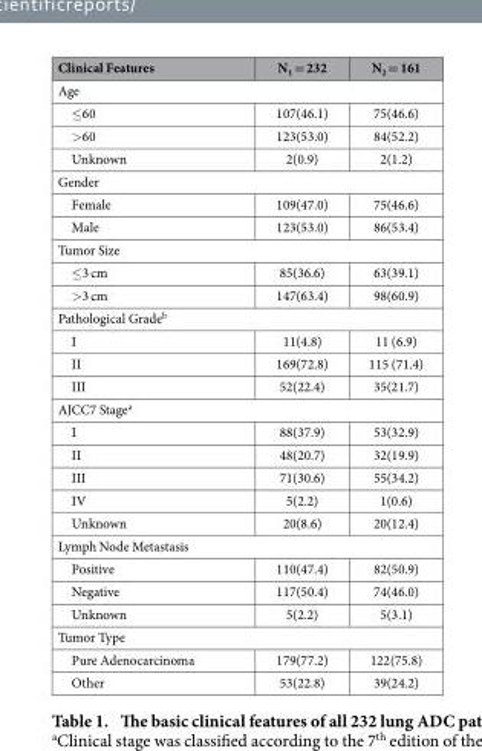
<table><thead><tr><td>Clinical Features</td><td>N<sub>1</sub> = 232</td><td>N<sub>2</sub> = 161</td></tr></thead><tbody><tr><td colspan="3">Age</td></tr><tr><td>≤ 60</td><td>107(46.1)</td><td>75(46.6)</td></tr><tr><td>&gt; 60</td><td>123(53.0)</td><td>84(52.2)</td></tr><tr><td>Unknown</td><td>2(0.9)</td><td>2(1.2)</td></tr><tr><td colspan="3">Gender</td></tr><tr><td>Female</td><td>109(47.0)</td><td>75(46.6)</td></tr><tr><td>Male</td><td>123(53.0)</td><td>86(53.4)</td></tr><tr><td colspan="3">Tumor Size</td></tr><tr><td>≤ 3 cm</td><td>85(36.6)</td><td>63(39.1)</td></tr><tr><td>&gt; 3 cm</td><td>147(63.4)</td><td>98(60.9)</td></tr><tr><td colspan="3">Pathological Grade<sup>b</sup></td></tr><tr><td>I</td><td>11(4.8)</td><td>11 (6.9)</td></tr><tr><td>II</td><td>169(72.8)</td><td>115 (71.4)</td></tr><tr><td>III</td><td>52(22.4)</td><td>35(21.7)</td></tr><tr><td colspan="3">AJCC7 Stage<sup>a</sup></td></tr><tr><td>I</td><td>88(37.9)</td><td>53(32.9)</td></tr><tr><td>II</td><td>48(20.7)</td><td>32(19.9)</td></tr><tr><td>III</td><td>71(30.6)</td><td>55(34.2)</td></tr><tr><td>IV</td><td>5(2.2)</td><td>1(0.6)</td></tr><tr><td>Unknown</td><td>20(8.6)</td><td>20(12.4)</td></tr><tr><td colspan="3">Lymph Node Metastasis</td></tr><tr><td>Positive</td><td>110(47.4)</td><td>82(50.9)</td></tr><tr><td>Negative</td><td>117(50.4)</td><td>74(46.0)</td></tr><tr><td>Unknown</td><td>5(2.2)</td><td>5(3.1)</td></tr><tr><td colspan="3">Tumor Type</td></tr><tr><td>Pure Adenocarcinoma</td><td>179(77.2)</td><td>122(75.8)</td></tr><tr><td>Other</td><td>53(22.8)</td><td>39(24.2)</td></tr></tbody></table>